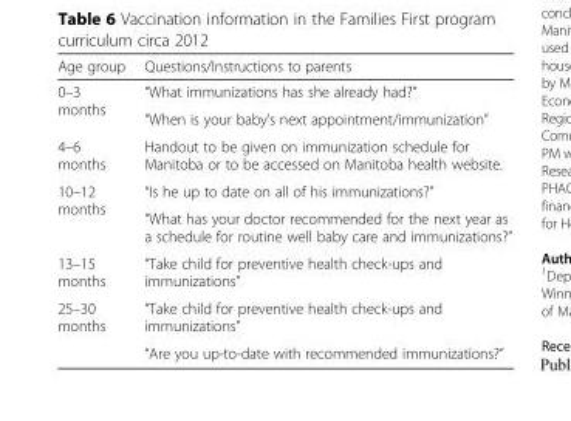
<table><thead><tr><td>Age group</td><td>Questions/Instructions to parents</td></tr></thead><tbody><tr><td rowspan="2">0–3 months</td><td>“What immunizations has she already had?”</td></tr><tr><td>“When is your baby’s next appointment/immunization”</td></tr><tr><td>4–6 months</td><td>Handout to be given on immunization schedule for Manitoba or to be accessed on Manitoba health website.</td></tr><tr><td rowspan="2">10–12 months</td><td>“Is he up to date on all of his immunizations?”</td></tr><tr><td>“What has your doctor recommended for the next year as a schedule for routine well baby care and immunizations?”</td></tr><tr><td>13–15 months</td><td>“Take child for preventive health check-ups and immunizations”</td></tr><tr><td rowspan="2">25–30 months</td><td>“Take child for preventive health check-ups and immunizations”</td></tr><tr><td>“Are you up-to-date with recommended immunizations?”</td></tr></tbody></table>